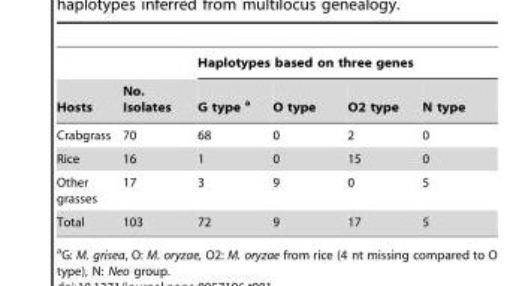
<table><thead><tr><td rowspan="2">Hosts</td><td rowspan="2">No. Isolates</td><td colspan="4">Haplotypes based on three genes</td></tr><tr><td>G type a</td><td>O type</td><td>O2 type</td><td>N type</td></tr></thead><tbody><tr><td>Crabgrass</td><td>70</td><td>68</td><td>0</td><td>2</td><td>0</td></tr><tr><td>Rice</td><td>16</td><td>1</td><td>0</td><td>15</td><td>0</td></tr><tr><td>Other grasses</td><td>17</td><td>3</td><td>9</td><td>0</td><td>5</td></tr><tr><td>Total</td><td>103</td><td>72</td><td>9</td><td>17</td><td>5</td></tr></tbody></table>